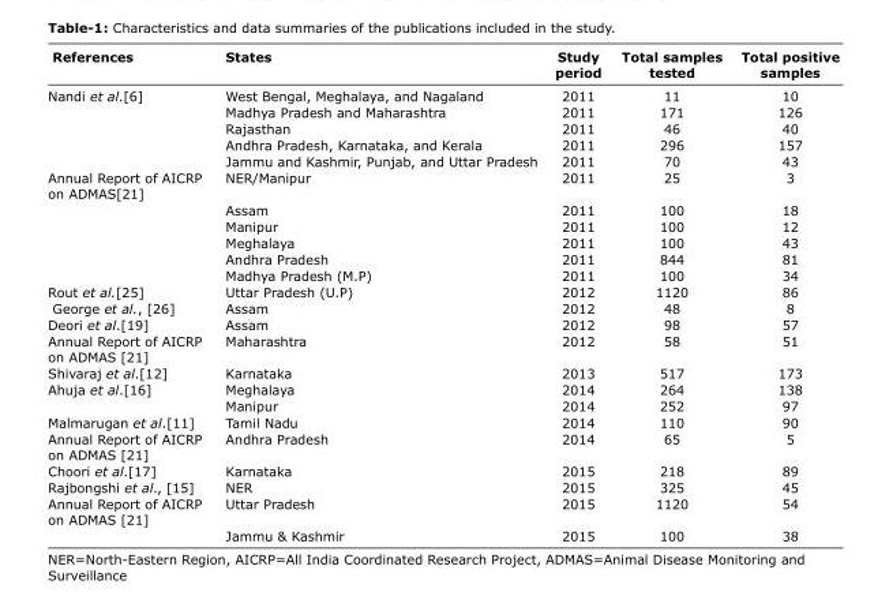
<table><thead><tr><td>References</td><td>States</td><td>Study period</td><td>Total samples tested</td><td>Total positive samples</td></tr></thead><tbody><tr><td rowspan="5">Nandi et al.[6]</td><td>West Bengal, Meghalaya, and Nagaland</td><td>2011</td><td>11</td><td>10</td></tr><tr><td>Madhya Pradesh and Maharashtra</td><td>2011</td><td>171</td><td>126</td></tr><tr><td>Rajasthan</td><td>2011</td><td>46</td><td>40</td></tr><tr><td>Andhra Pradesh, Karnataka, and Kerala</td><td>2011</td><td>296</td><td>157</td></tr><tr><td>Jammu and Kashmir, Punjab, and Uttar Pradesh</td><td>2011</td><td>70</td><td>43</td></tr><tr><td rowspan="6">Annual Report of AICRP on ADMAS[21]</td><td>NER/Manipur</td><td>2011</td><td>25</td><td>3</td></tr><tr><td>Assam</td><td>2011</td><td>100</td><td>18</td></tr><tr><td>Manipur</td><td>2011</td><td>100</td><td>12</td></tr><tr><td>Meghalaya</td><td>2011</td><td>100</td><td>43</td></tr><tr><td>Andhra Pradesh</td><td>2011</td><td>844</td><td>81</td></tr><tr><td>Madhya Pradesh (M.P)</td><td>2011</td><td>100</td><td>34</td></tr><tr><td>Rout et al.[25]</td><td>Uttar Pradesh (U.P)</td><td>2012</td><td>1120</td><td>86</td></tr><tr><td>George et al., [26]</td><td>Assam</td><td>2012</td><td>48</td><td>8</td></tr><tr><td>Deori et al.[19]</td><td>Assam</td><td>2012</td><td>98</td><td>57</td></tr><tr><td>Annual Report of AICRP on ADMAS [21]</td><td>Maharashtra</td><td>2012</td><td>58</td><td>51</td></tr><tr><td>Shivaraj et al.[12]</td><td>Karnataka</td><td>2013</td><td>517</td><td>173</td></tr><tr><td rowspan="2">Ahuja et al.[16]</td><td>Meghalaya</td><td>2014</td><td>264</td><td>138</td></tr><tr><td>Manipur</td><td>2014</td><td>252</td><td>97</td></tr><tr><td>Malmarugan et al.[11]</td><td>Tamil Nadu</td><td>2014</td><td>110</td><td>90</td></tr><tr><td>Annual Report of AICRP on ADMAS [21]</td><td>Andhra Pradesh</td><td>2014</td><td>65</td><td>5</td></tr><tr><td>Choori et al.[17]</td><td>Karnataka</td><td>2015</td><td>218</td><td>89</td></tr><tr><td>Rajbongshi et al., [15]</td><td>NER</td><td>2015</td><td>325</td><td>45</td></tr><tr><td rowspan="2">Annual Report of AICRP on ADMAS [21]</td><td>Uttar Pradesh</td><td>2015</td><td>1120</td><td>54</td></tr><tr><td>Jammu &amp; Kashmir</td><td>2015</td><td>100</td><td>38</td></tr></tbody></table>